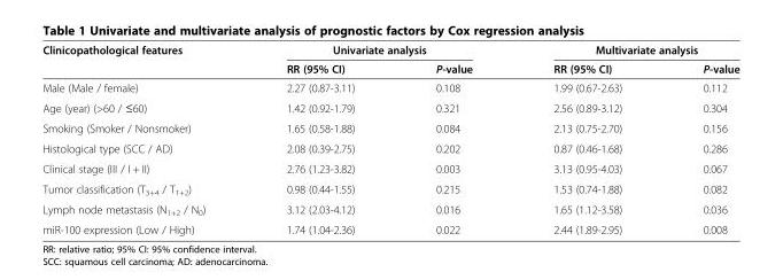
<table><thead><tr><td rowspan="2">Clinicopathological features</td><td colspan="2">Univariate analysis</td><td colspan="2">Multivariate analysis</td></tr><tr><td>RR (95% CI)</td><td>P-value</td><td>RR (95% CI)</td><td>P-value</td></tr></thead><tbody><tr><td>Male (Male / female)</td><td>2.27 (0.87-3.11)</td><td>0.108</td><td>1.99 (0.67-2.63)</td><td>0.112</td></tr><tr><td>Age (year) (&gt;60 / ≤60)</td><td>1.42 (0.92-1.79)</td><td>0.321</td><td>2.56 (0.89-3.12)</td><td>0.304</td></tr><tr><td>Smoking (Smoker / Nonsmoker)</td><td>1.65 (0.58-1.88)</td><td>0.084</td><td>2.13 (0.75-2.70)</td><td>0.156</td></tr><tr><td>Histological type (SCC / AD)</td><td>2.08 (0.39-2.75)</td><td>0.202</td><td>0.87 (0.46-1.68)</td><td>0.286</td></tr><tr><td>Clinical stage (III / I + II)</td><td>2.76 (1.23-3.82)</td><td>0.003</td><td>3.13 (0.95-4.03)</td><td>0.067</td></tr><tr><td>Tumor classification (T<sub>3+4</sub> / T<sub>1+2</sub>)</td><td>0.98 (0.44-1.55)</td><td>0.215</td><td>1.53 (0.74-1.88)</td><td>0.082</td></tr><tr><td>Lymph node metastasis (N<sub>1+2</sub> / N<sub>0</sub>)</td><td>3.12 (2.03-4.12)</td><td>0.016</td><td>1.65 (1.12-3.58)</td><td>0.036</td></tr><tr><td>miR-100 expression (Low / High)</td><td>1.74 (1.04-2.36)</td><td>0.022</td><td>2.44 (1.89-2.95)</td><td>0.008</td></tr></tbody></table>